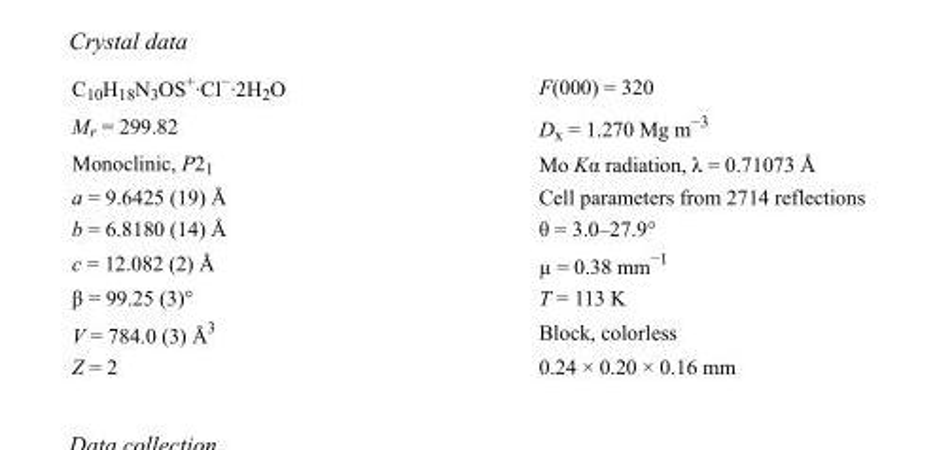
<table><tbody><tr><td>C<sub>10</sub>H<sub>18</sub>N<sub>3</sub>OS<sup>+</sup>·Cl<sup>−</sup>·2H<sub>2</sub>O</td><td>F(000) = 320</td></tr><tr><td>M<sub>r</sub> = 299.82</td><td>D<sub>x</sub> = 1.270 Mg m<sup>−3</sup></td></tr><tr><td>Monoclinic, P2<sub>1</sub></td><td>Mo Kα radiation, λ = 0.71073 Å</td></tr><tr><td>a = 9.6425 (19) Å</td><td>Cell parameters from 2714 reflections</td></tr><tr><td>b = 6.8180 (14) Å</td><td>θ = 3.0–27.9°</td></tr><tr><td>c = 12.082 (2) Å</td><td>µ = 0.38 mm<sup>−1</sup></td></tr><tr><td>β = 99.25 (3)°</td><td>T = 113 K</td></tr><tr><td>V = 784.0 (3) Å<sup>3</sup></td><td>Block, colorless</td></tr><tr><td>Z = 2</td><td>0.24 × 0.20 × 0.16 mm</td></tr></tbody></table>